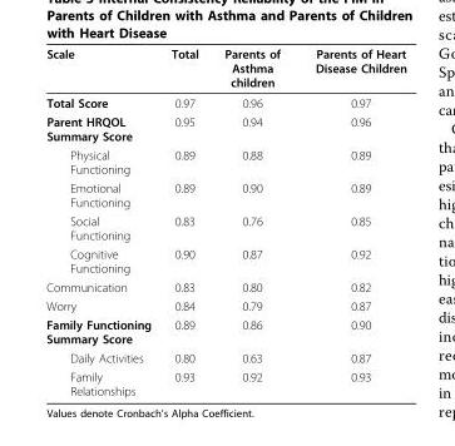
<table><thead><tr><td>Scale</td><td>Total</td><td>Parents of Asthma children</td><td>Parents of Heart Disease Children</td></tr></thead><tbody><tr><td>Total Score</td><td>0.97</td><td>0.96</td><td>0.97</td></tr><tr><td>Parent HRQOL Summary Score</td><td>0.95</td><td>0.94</td><td>0.96</td></tr><tr><td>Physical Functioning</td><td>0.89</td><td>0.88</td><td>0.89</td></tr><tr><td>Emotional Functioning</td><td>0.89</td><td>0.90</td><td>0.89</td></tr><tr><td>Social Functioning</td><td>0.83</td><td>0.76</td><td>0.85</td></tr><tr><td>Cognitive Functioning</td><td>0.90</td><td>0.87</td><td>0.92</td></tr><tr><td>Communication</td><td>0.83</td><td>0.80</td><td>0.82</td></tr><tr><td>Worry</td><td>0.84</td><td>0.79</td><td>0.87</td></tr><tr><td>Family Functioning Summary Score</td><td>0.89</td><td>0.86</td><td>0.90</td></tr><tr><td>Daily Activities</td><td>0.80</td><td>0.63</td><td>0.87</td></tr><tr><td>Family Relationships</td><td>0.93</td><td>0.92</td><td>0.93</td></tr></tbody></table>